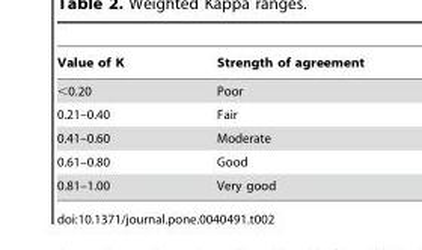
<table><thead><tr><td>Value of K</td><td>Strength of agreement</td></tr></thead><tbody><tr><td>&lt;0.20</td><td>Poor</td></tr><tr><td>0.21–0.40</td><td>Fair</td></tr><tr><td>0.41–0.60</td><td>Moderate</td></tr><tr><td>0.61–0.80</td><td>Good</td></tr><tr><td>0.81–1.00</td><td>Very good</td></tr></tbody></table>